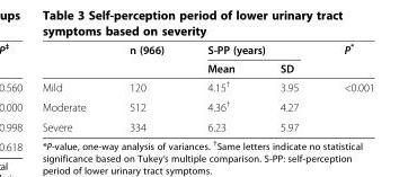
<table><thead><tr><td rowspan="2"></td><td rowspan="2">n (966)</td><td colspan="2">S-PP (years)</td><td rowspan="2">P*</td></tr><tr><td>Mean</td><td>SD</td></tr></thead><tbody><tr><td>Mild</td><td>120</td><td>4.15<sup>†</sup></td><td>3.95</td><td>&lt;0.001</td></tr><tr><td>Moderate</td><td>512</td><td>4.36<sup>†</sup></td><td>4.27</td><td></td></tr><tr><td>Severe</td><td>334</td><td>6.23</td><td>5.97</td><td></td></tr></tbody></table>